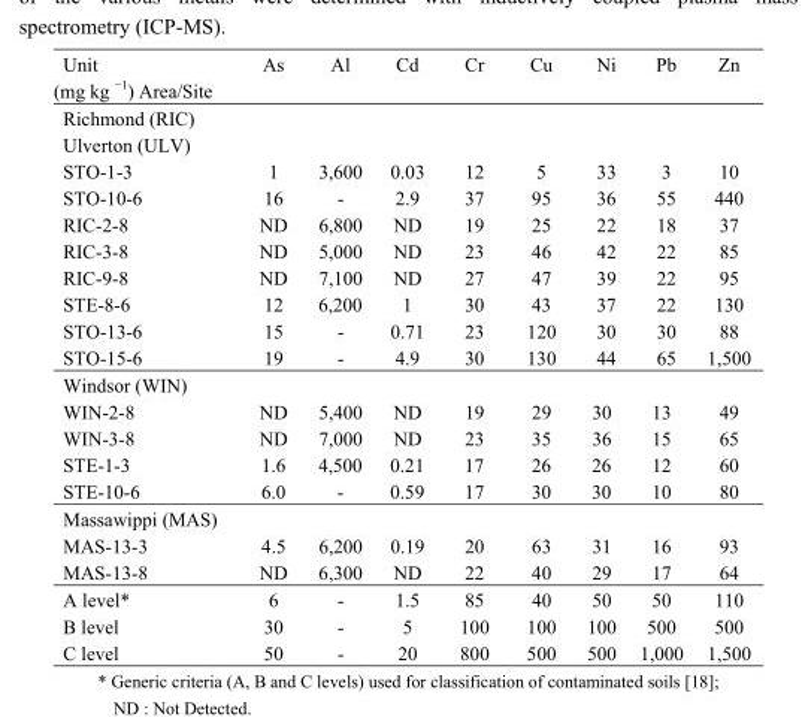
<table><thead><tr><td>Unit (mg kg <sup>−1</sup>) Area/Site</td><td>As</td><td>Al</td><td>Cd</td><td>Cr</td><td>Cu</td><td>Ni</td><td>Pb</td><td>Zn</td></tr></thead><tbody><tr><td colspan="9">Richmond (RIC)</td></tr><tr><td colspan="9">Ulverton (ULV)</td></tr><tr><td>STO-1-3</td><td>1</td><td>3,600</td><td>0.03</td><td>12</td><td>5</td><td>33</td><td>3</td><td>10</td></tr><tr><td>STO-10-6</td><td>16</td><td>-</td><td>2.9</td><td>37</td><td>95</td><td>36</td><td>55</td><td>440</td></tr><tr><td>RIC-2-8</td><td>ND</td><td>6,800</td><td>ND</td><td>19</td><td>25</td><td>22</td><td>18</td><td>37</td></tr><tr><td>RIC-3-8</td><td>ND</td><td>5,000</td><td>ND</td><td>23</td><td>46</td><td>42</td><td>22</td><td>85</td></tr><tr><td>RIC-9-8</td><td>ND</td><td>7,100</td><td>ND</td><td>27</td><td>47</td><td>39</td><td>22</td><td>95</td></tr><tr><td>STE-8-6</td><td>12</td><td>6,200</td><td>1</td><td>30</td><td>43</td><td>37</td><td>22</td><td>130</td></tr><tr><td>STO-13-6</td><td>15</td><td>-</td><td>0.71</td><td>23</td><td>120</td><td>30</td><td>30</td><td>88</td></tr><tr><td>STO-15-6</td><td>19</td><td>-</td><td>4.9</td><td>30</td><td>130</td><td>44</td><td>65</td><td>1,500</td></tr><tr><td colspan="9">Windsor (WIN)</td></tr><tr><td>WIN-2-8</td><td>ND</td><td>5,400</td><td>ND</td><td>19</td><td>29</td><td>30</td><td>13</td><td>49</td></tr><tr><td>WIN-3-8</td><td>ND</td><td>7,000</td><td>ND</td><td>23</td><td>35</td><td>36</td><td>15</td><td>65</td></tr><tr><td>STE-1-3</td><td>1.6</td><td>4,500</td><td>0.21</td><td>17</td><td>26</td><td>26</td><td>12</td><td>60</td></tr><tr><td>STE-10-6</td><td>6.0</td><td>-</td><td>0.59</td><td>17</td><td>30</td><td>30</td><td>10</td><td>80</td></tr><tr><td colspan="9">Massawippi (MAS)</td></tr><tr><td>MAS-13-3</td><td>4.5</td><td>6,200</td><td>0.19</td><td>20</td><td>63</td><td>31</td><td>16</td><td>93</td></tr><tr><td>MAS-13-8</td><td>ND</td><td>6,300</td><td>ND</td><td>22</td><td>40</td><td>29</td><td>17</td><td>64</td></tr><tr><td>A level*</td><td>6</td><td>-</td><td>1.5</td><td>85</td><td>40</td><td>50</td><td>50</td><td>110</td></tr><tr><td>B level</td><td>30</td><td>-</td><td>5</td><td>100</td><td>100</td><td>100</td><td>500</td><td>500</td></tr><tr><td>C level</td><td>50</td><td>-</td><td>20</td><td>800</td><td>500</td><td>500</td><td>1,000</td><td>1,500</td></tr></tbody></table>